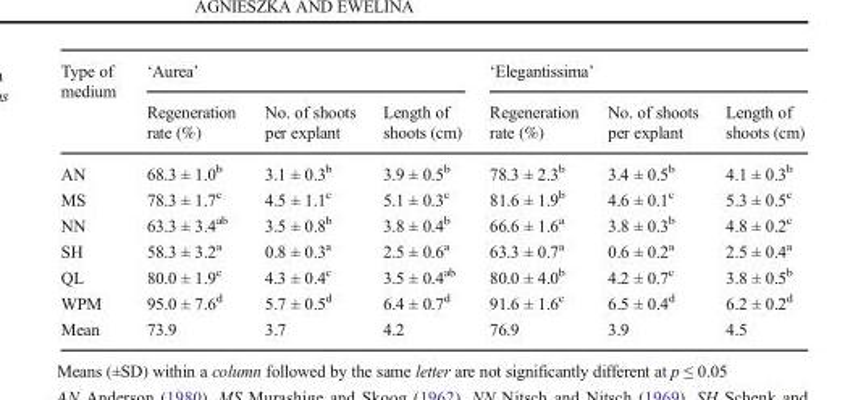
<table><thead><tr><td rowspan="2">Type of medium</td><td colspan="3">‘Aurea’</td><td colspan="3">‘Elegantissima’</td></tr><tr><td>Regeneration rate (%)</td><td>No. of shoots per explant</td><td>Length of shoots (cm)</td><td>Regeneration rate (%)</td><td>No. of shoots per explant</td><td>Length of shoots (cm)</td></tr></thead><tbody><tr><td>AN</td><td>68.3 ± 1.0<sup>b</sup></td><td>3.1 ± 0.3<sup>b</sup></td><td>3.9 ± 0.5<sup>b</sup></td><td>78.3 ± 2.3<sup>b</sup></td><td>3.4 ± 0.5<sup>b</sup></td><td>4.1 ± 0.3<sup>b</sup></td></tr><tr><td>MS</td><td>78.3 ± 1.7<sup>c</sup></td><td>4.5 ± 1.1<sup>c</sup></td><td>5.1 ± 0.3<sup>c</sup></td><td>81.6 ± 1.9<sup>b</sup></td><td>4.6 ± 0.1<sup>c</sup></td><td>5.3 ± 0.5<sup>c</sup></td></tr><tr><td>NN</td><td>63.3 ± 3.4<sup>ab</sup></td><td>3.5 ± 0.8<sup>b</sup></td><td>3.8 ± 0.4<sup>b</sup></td><td>66.6 ± 1.6<sup>a</sup></td><td>3.8 ± 0.3<sup>b</sup></td><td>4.8 ± 0.2<sup>c</sup></td></tr><tr><td>SH</td><td>58.3 ± 3.2<sup>a</sup></td><td>0.8 ± 0.3<sup>a</sup></td><td>2.5 ± 0.6<sup>a</sup></td><td>63.3 ± 0.7<sup>a</sup></td><td>0.6 ± 0.2<sup>a</sup></td><td>2.5 ± 0.4<sup>a</sup></td></tr><tr><td>QL</td><td>80.0 ± 1.9<sup>c</sup></td><td>4.3 ± 0.4<sup>c</sup></td><td>3.5 ± 0.4<sup>ab</sup></td><td>80.0 ± 4.0<sup>b</sup></td><td>4.2 ± 0.7<sup>c</sup></td><td>3.8 ± 0.5<sup>b</sup></td></tr><tr><td>WPM</td><td>95.0 ± 7.6<sup>d</sup></td><td>5.7 ± 0.5<sup>d</sup></td><td>6.4 ± 0.7<sup>d</sup></td><td>91.6 ± 1.6<sup>c</sup></td><td>6.5 ± 0.4<sup>d</sup></td><td>6.2 ± 0.2<sup>d</sup></td></tr><tr><td>Mean</td><td>73.9</td><td>3.7</td><td>4.2</td><td>76.9</td><td>3.9</td><td>4.5</td></tr></tbody></table>